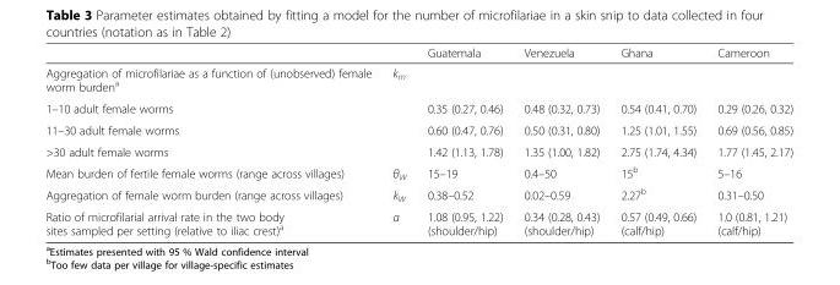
<table><thead><tr><td></td><td></td><td>Guatemala</td><td>Venezuela</td><td>Ghana</td><td>Cameroon</td></tr></thead><tbody><tr><td>Aggregation of microfilariae as a function of (unobserved) female worm burden<sup>a</sup></td><td>k<sub>m</sub></td><td></td><td></td><td></td><td></td></tr><tr><td>1–10 adult female worms</td><td></td><td>0.35 (0.27, 0.46)</td><td>0.48 (0.32, 0.73)</td><td>0.54 (0.41, 0.70)</td><td>0.29 (0.26, 0.32)</td></tr><tr><td>11–30 adult female worms</td><td></td><td>0.60 (0.47, 0.76)</td><td>0.50 (0.31, 0.80)</td><td>1.25 (1.01, 1.55)</td><td>0.69 (0.56, 0.85)</td></tr><tr><td>&gt;30 adult female worms</td><td></td><td>1.42 (1.13, 1.78)</td><td>1.35 (1.00, 1.82)</td><td>2.75 (1.74, 4.34)</td><td>1.77 (1.45, 2.17)</td></tr><tr><td>Mean burden of fertile female worms (range across villages)</td><td>θ<sub>W</sub></td><td>15–19</td><td>0.4–50</td><td>15<sup>b</sup></td><td>5–16</td></tr><tr><td>Aggregation of female worm burden (range across villages)</td><td>k<sub>W</sub></td><td>0.38–0.52</td><td>0.02–0.59</td><td>2.27<sup>b</sup></td><td>0.31–0.50</td></tr><tr><td>Ratio of microfilarial arrival rate in the two body sites sampled per setting (relative to iliac crest)<sup>a</sup></td><td>α</td><td>1.08 (0.95, 1.22) (shoulder/hip)</td><td>0.34 (0.28, 0.43) (shoulder/hip)</td><td>0.57 (0.49, 0.66) (calf/hip)</td><td>1.0 (0.81, 1.21) (calf/hip)</td></tr></tbody></table>